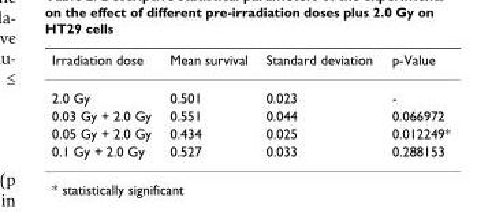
<table><thead><tr><td>Irradiation dose</td><td>Mean survival</td><td>Standard deviation</td><td>p-Value</td></tr></thead><tbody><tr><td>2.0 Gy</td><td>0.501</td><td>0.023</td><td>-</td></tr><tr><td>0.03 Gy + 2.0 Gy</td><td>0.551</td><td>0.044</td><td>0.066972</td></tr><tr><td>0.05 Gy + 2.0 Gy</td><td>0.434</td><td>0.025</td><td>0.012249*</td></tr><tr><td>0.1 Gy + 2.0 Gy</td><td>0.527</td><td>0.033</td><td>0.288153</td></tr></tbody></table>